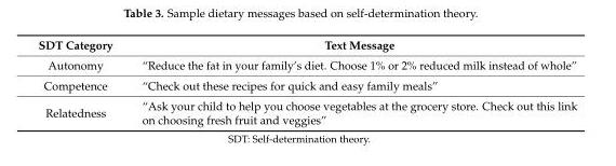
<table><thead><tr><td>SDT Category</td><td>Text Message</td></tr></thead><tbody><tr><td>Autonomy</td><td>“Reduce the fat in your family’s diet. Choose 1% or 2% reduced milk instead of whole”</td></tr><tr><td>Competence</td><td>“Check out these recipes for quick and easy family meals”</td></tr><tr><td>Relatedness</td><td>“Ask your child to help you choose vegetables at the grocery store. Check out this link on choosing fresh fruit and veggies”</td></tr></tbody></table>